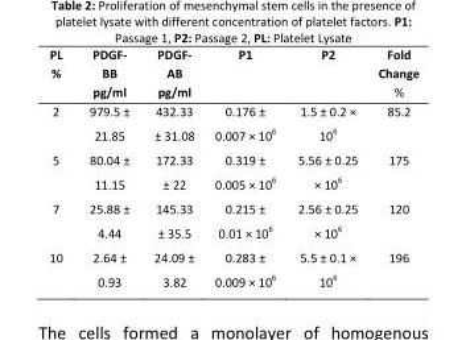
<table><thead><tr><td>PL %</td><td>PDGF- BB pg/ml</td><td>PDGF- AB pg/ml</td><td>P1</td><td>P2</td><td>Fold Change %</td></tr></thead><tbody><tr><td>2</td><td>979.5 ± 21.85</td><td>432.33 ± 31.08</td><td>0.176 ± 0.007 × 10<sup>6</sup></td><td>1.5 ± 0.2 × 10<sup>6</sup></td><td>85.2</td></tr><tr><td>5</td><td>80.04 ± 11.15</td><td>172.33 ± 22</td><td>0.319 ± 0.005 × 10<sup>6</sup></td><td>5.56 ± 0.25 × 10<sup>6</sup></td><td>175</td></tr><tr><td>7</td><td>25.88 ± 4.44</td><td>145.33 ± 35.5</td><td>0.215 ± 0.01 × 10<sup>6</sup></td><td>2.56 ± 0.25 × 10<sup>6</sup></td><td>120</td></tr><tr><td>10</td><td>2.64 ± 0.93</td><td>24.09 ± 3.82</td><td>0.283 ± 0.009 × 10<sup>6</sup></td><td>5.5 ± 0.1 × 10<sup>6</sup></td><td>196</td></tr></tbody></table>